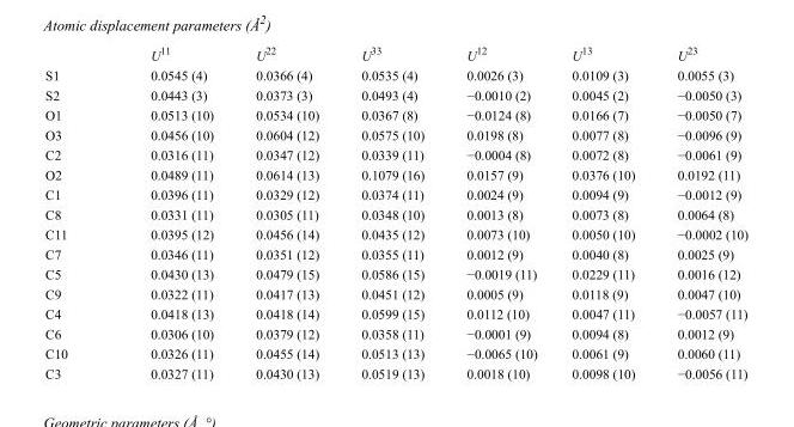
<table><thead><tr><td></td><td>U<sup>11</sup></td><td>U<sup>22</sup></td><td>U<sup>33</sup></td><td>U<sup>12</sup></td><td>U<sup>13</sup></td><td>U<sup>23</sup></td></tr></thead><tbody><tr><td>S1</td><td>0.0545 (4)</td><td>0.0366 (4)</td><td>0.0535 (4)</td><td>0.0026 (3)</td><td>0.0109 (3)</td><td>0.0055 (3)</td></tr><tr><td>S2</td><td>0.0443 (3)</td><td>0.0373 (3)</td><td>0.0493 (4)</td><td>−0.0010 (2)</td><td>0.0045 (2)</td><td>−0.0050 (3)</td></tr><tr><td>O1</td><td>0.0513 (10)</td><td>0.0534 (10)</td><td>0.0367 (8)</td><td>−0.0124 (8)</td><td>0.0166 (7)</td><td>−0.0050 (7)</td></tr><tr><td>O3</td><td>0.0456 (10)</td><td>0.0604 (12)</td><td>0.0575 (10)</td><td>0.0198 (8)</td><td>0.0077 (8)</td><td>−0.0096 (9)</td></tr><tr><td>C2</td><td>0.0316 (11)</td><td>0.0347 (12)</td><td>0.0339 (11)</td><td>−0.0004 (8)</td><td>0.0072 (8)</td><td>−0.0061 (9)</td></tr><tr><td>O2</td><td>0.0489 (11)</td><td>0.0614 (13)</td><td>0.1079 (16)</td><td>0.0157 (9)</td><td>0.0376 (10)</td><td>0.0192 (11)</td></tr><tr><td>C1</td><td>0.0396 (11)</td><td>0.0329 (12)</td><td>0.0374 (11)</td><td>0.0024 (9)</td><td>0.0094 (9)</td><td>−0.0012 (9)</td></tr><tr><td>C8</td><td>0.0331 (11)</td><td>0.0305 (11)</td><td>0.0348 (10)</td><td>0.0013 (8)</td><td>0.0073 (8)</td><td>0.0064 (8)</td></tr><tr><td>C11</td><td>0.0395 (12)</td><td>0.0456 (14)</td><td>0.0435 (12)</td><td>0.0073 (10)</td><td>0.0050 (10)</td><td>−0.0002 (10)</td></tr><tr><td>C7</td><td>0.0346 (11)</td><td>0.0351 (12)</td><td>0.0355 (11)</td><td>0.0012 (9)</td><td>0.0040 (8)</td><td>0.0025 (9)</td></tr><tr><td>C5</td><td>0.0430 (13)</td><td>0.0479 (15)</td><td>0.0586 (15)</td><td>−0.0019 (11)</td><td>0.0229 (11)</td><td>0.0016 (12)</td></tr><tr><td>C9</td><td>0.0322 (11)</td><td>0.0417 (13)</td><td>0.0451 (12)</td><td>0.0005 (9)</td><td>0.0118 (9)</td><td>0.0047 (10)</td></tr><tr><td>C4</td><td>0.0418 (13)</td><td>0.0418 (14)</td><td>0.0599 (15)</td><td>0.0112 (10)</td><td>0.0047 (11)</td><td>−0.0057 (11)</td></tr><tr><td>C6</td><td>0.0306 (10)</td><td>0.0379 (12)</td><td>0.0358 (11)</td><td>−0.0001 (9)</td><td>0.0094 (8)</td><td>0.0012 (9)</td></tr><tr><td>C10</td><td>0.0326 (11)</td><td>0.0455 (14)</td><td>0.0513 (13)</td><td>−0.0065 (10)</td><td>0.0061 (9)</td><td>0.0060 (11)</td></tr><tr><td>C3</td><td>0.0327 (11)</td><td>0.0430 (13)</td><td>0.0519 (13)</td><td>0.0018 (10)</td><td>0.0098 (10)</td><td>−0.0056 (11)</td></tr></tbody></table>